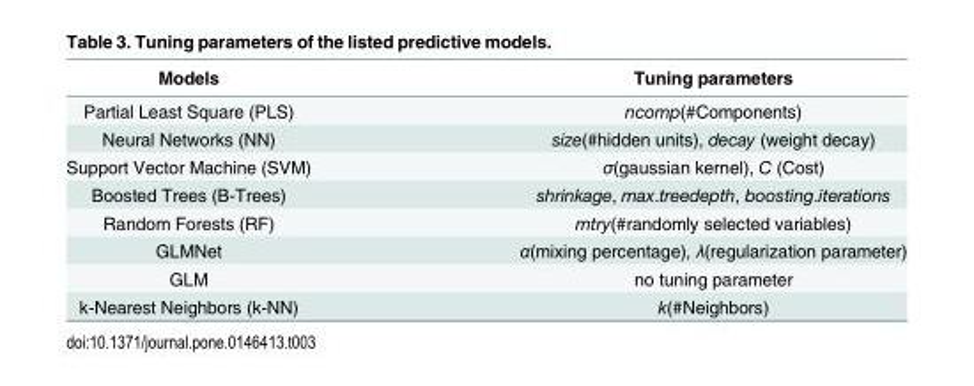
<table><thead><tr><td>Models</td><td>Tuning parameters</td></tr></thead><tbody><tr><td>Partial Least Square (PLS)</td><td>ncomp(#Components)</td></tr><tr><td>Neural Networks (NN)</td><td>size(#hidden units), decay (weight decay)</td></tr><tr><td>Support Vector Machine (SVM)</td><td>σ(gaussian kernel), C (Cost)</td></tr><tr><td>Boosted Trees (B-Trees)</td><td>shrinkage, max.treedepth, boosting.iterations</td></tr><tr><td>Random Forests (RF)</td><td>mtry(#randomly selected variables)</td></tr><tr><td>GLMNet</td><td>α(mixing percentage), λ(regularization parameter)</td></tr><tr><td>GLM</td><td>no tuning parameter</td></tr><tr><td>k-Nearest Neighbors (k-NN)</td><td>k(#Neighbors)</td></tr></tbody></table>